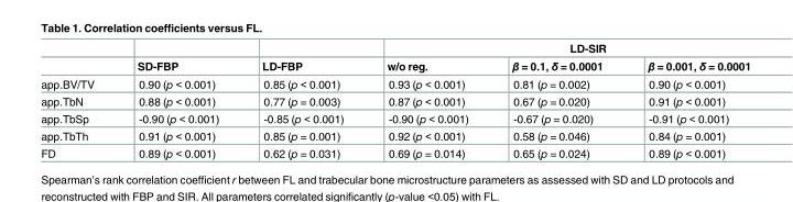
<table><thead><tr><td rowspan="2"></td><td rowspan="2">SD-FBP</td><td rowspan="2">LD-FBP</td><td colspan="3">LD-SIR</td></tr><tr><td>w/o reg.</td><td>β = 0.1, δ = 0.0001</td><td>β = 0.001, δ = 0.0001</td></tr></thead><tbody><tr><td>app.BV/TV</td><td>0.90 (p &lt; 0.001)</td><td>0.85 (p &lt; 0.001)</td><td>0.93 (p &lt; 0.001)</td><td>0.81 (p = 0.002)</td><td>0.90 (p &lt; 0.001)</td></tr><tr><td>app.TbN</td><td>0.88 (p &lt; 0.001)</td><td>0.77 (p = 0.003)</td><td>0.87 (p &lt; 0.001)</td><td>0.67 (p = 0.020)</td><td>0.91 (p &lt; 0.001)</td></tr><tr><td>app.TbSp</td><td>-0.90 (p &lt; 0.001)</td><td>-0.85 (p &lt; 0.001)</td><td>-0.90 (p &lt; 0.001)</td><td>-0.67 (p = 0.020)</td><td>-0.91 (p &lt; 0.001)</td></tr><tr><td>app.TbTh</td><td>0.91 (p &lt; 0.001)</td><td>0.85 (p = 0.001)</td><td>0.92 (p &lt; 0.001)</td><td>0.58 (p = 0.046)</td><td>0.84 (p = 0.001)</td></tr><tr><td>FD</td><td>0.89 (p &lt; 0.001)</td><td>0.62 (p = 0.031)</td><td>0.69 (p = 0.014)</td><td>0.65 (p = 0.024)</td><td>0.89 (p &lt; 0.001)</td></tr></tbody></table>